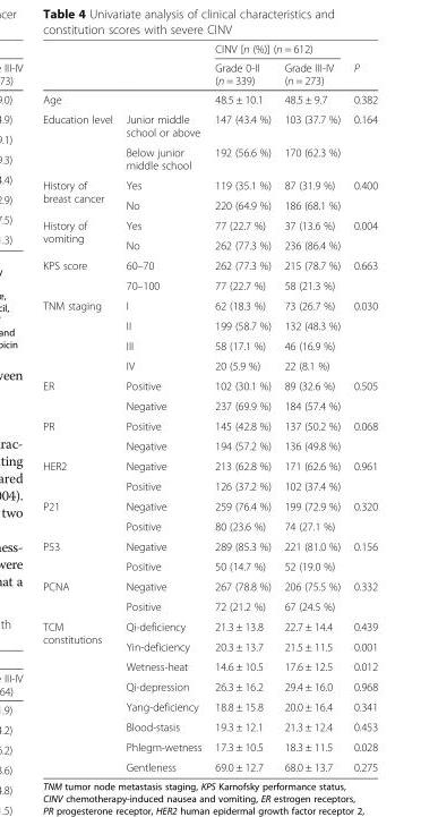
<table><thead><tr><td rowspan="2"></td><td rowspan="2"></td><td colspan="2">CINV [n (%)] (n = 612)</td><td rowspan="2">P</td></tr><tr><td>Grade 0-II (n = 339)</td><td>Grade III-IV (n = 273)</td></tr></thead><tbody><tr><td>Age</td><td></td><td>48.5 ± 10.1</td><td>48.5 ± 9.7</td><td>0.382</td></tr><tr><td rowspan="2">Education level</td><td>Junior middle school or above</td><td>147 (43.4 %)</td><td>103 (37.7 %)</td><td>0.164</td></tr><tr><td>Below junior middle school</td><td>192 (56.6 %)</td><td>170 (62.3 %)</td><td></td></tr><tr><td rowspan="2">History of breast cancer</td><td>Yes</td><td>119 (35.1 %)</td><td>87 (31.9 %)</td><td>0.400</td></tr><tr><td>No</td><td>220 (64.9 %)</td><td>186 (68.1 %)</td><td></td></tr><tr><td rowspan="2">History of vomiting</td><td>Yes</td><td>77 (22.7 %)</td><td>37 (13.6 %)</td><td>0.004</td></tr><tr><td>No</td><td>262 (77.3 %)</td><td>236 (86.4 %)</td><td></td></tr><tr><td rowspan="2">KPS score</td><td>60–70</td><td>262 (77.3 %)</td><td>215 (78.7 %)</td><td>0.663</td></tr><tr><td>70–100</td><td>77 (22.7 %)</td><td>58 (21.3 %)</td><td></td></tr><tr><td rowspan="4">TNM staging</td><td>I</td><td>62 (18.3 %)</td><td>73 (26.7 %)</td><td>0.030</td></tr><tr><td>II</td><td>199 (58.7 %)</td><td>132 (48.3 %)</td><td></td></tr><tr><td>III</td><td>58 (17.1 %)</td><td>46 (16.9 %)</td><td></td></tr><tr><td>IV</td><td>20 (5.9 %)</td><td>22 (8.1 %)</td><td></td></tr><tr><td rowspan="2">ER</td><td>Positive</td><td>102 (30.1 %)</td><td>89 (32.6 %)</td><td>0.505</td></tr><tr><td>Negative</td><td>237 (69.9 %)</td><td>184 (57.4 %)</td><td></td></tr><tr><td rowspan="2">PR</td><td>Positive</td><td>145 (42.8 %)</td><td>137 (50.2 %)</td><td>0.068</td></tr><tr><td>Negative</td><td>194 (57.2 %)</td><td>136 (49.8 %)</td><td></td></tr><tr><td rowspan="2">HER2</td><td>Negative</td><td>213 (62.8 %)</td><td>171 (62.6 %)</td><td>0.961</td></tr><tr><td>Positive</td><td>126 (37.2 %)</td><td>102 (37.4 %)</td><td></td></tr><tr><td rowspan="2">P21</td><td>Negative</td><td>259 (76.4 %)</td><td>199 (72.9 %)</td><td>0.320</td></tr><tr><td>Positive</td><td>80 (23.6 %)</td><td>74 (27.1 %)</td><td></td></tr><tr><td rowspan="2">P53</td><td>Negative</td><td>289 (85.3 %)</td><td>221 (81.0 %)</td><td>0.156</td></tr><tr><td>Positive</td><td>50 (14.7 %)</td><td>52 (19.0 %)</td><td></td></tr><tr><td rowspan="2">PCNA</td><td>Negative</td><td>267 (78.8 %)</td><td>206 (75.5 %)</td><td>0.332</td></tr><tr><td>Positive</td><td>72 (21.2 %)</td><td>67 (24.5 %)</td><td></td></tr><tr><td rowspan="8">TCM constitutions</td><td>Qi-deficiency</td><td>21.3 ± 13.8</td><td>22.7 ± 14.4</td><td>0.439</td></tr><tr><td>Yin-deficiency</td><td>20.3 ± 13.7</td><td>21.5 ± 11.5</td><td>0.001</td></tr><tr><td>Wetness-heat</td><td>14.6 ± 10.5</td><td>17.6 ± 12.5</td><td>0.012</td></tr><tr><td>Qi-depression</td><td>26.3 ± 16.2</td><td>29.4 ± 16.0</td><td>0.968</td></tr><tr><td>Yang-deficiency</td><td>18.8 ± 15.8</td><td>20.0 ± 16.4</td><td>0.341</td></tr><tr><td>Blood-stasis</td><td>19.3 ± 12.1</td><td>21.3 ± 12.4</td><td>0.453</td></tr><tr><td>Phlegm-wetness</td><td>17.3 ± 10.5</td><td>18.3 ± 11.5</td><td>0.028</td></tr><tr><td>Gentleness</td><td>69.0 ± 12.7</td><td>68.0 ± 13.7</td><td>0.275</td></tr></tbody></table>